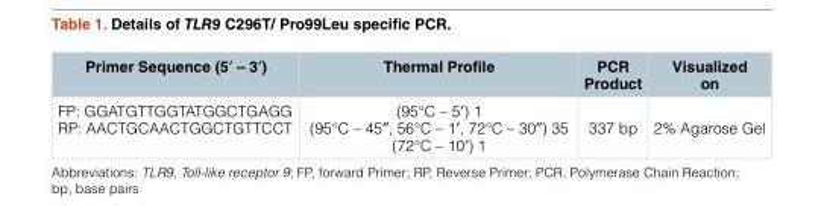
<table><thead><tr><td>Primer Sequence (5′ – 3′)</td><td>Thermal Profile</td><td>PCR Product</td><td>Visualized on</td></tr></thead><tbody><tr><td>FP: GGATGTTGGTATGGCTGAGG RP: AACTGCAACTGGCTGTTCCT</td><td>(95°C – 5′) 1 (95°C – 45″, 56°C – 1′, 72°C – 30″) 35 (72°C – 10′) 1</td><td>337 bp</td><td>2% Agarose Gel</td></tr></tbody></table>